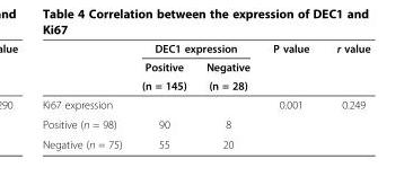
<table><thead><tr><td rowspan="3"></td><td colspan="2">DEC1 expression</td><td rowspan="3">P value</td><td rowspan="3">r value</td></tr><tr><td rowspan="2">Positive (n = 145)</td><td rowspan="2">Negative (n = 28)</td></tr><tr></tr></thead><tbody><tr><td>Ki67 expression</td><td></td><td></td><td>0.001</td><td>0.249</td></tr><tr><td>Positive (n = 98)</td><td>90</td><td>8</td><td></td><td></td></tr><tr><td>Negative (n = 75)</td><td>55</td><td>20</td><td></td><td></td></tr></tbody></table>